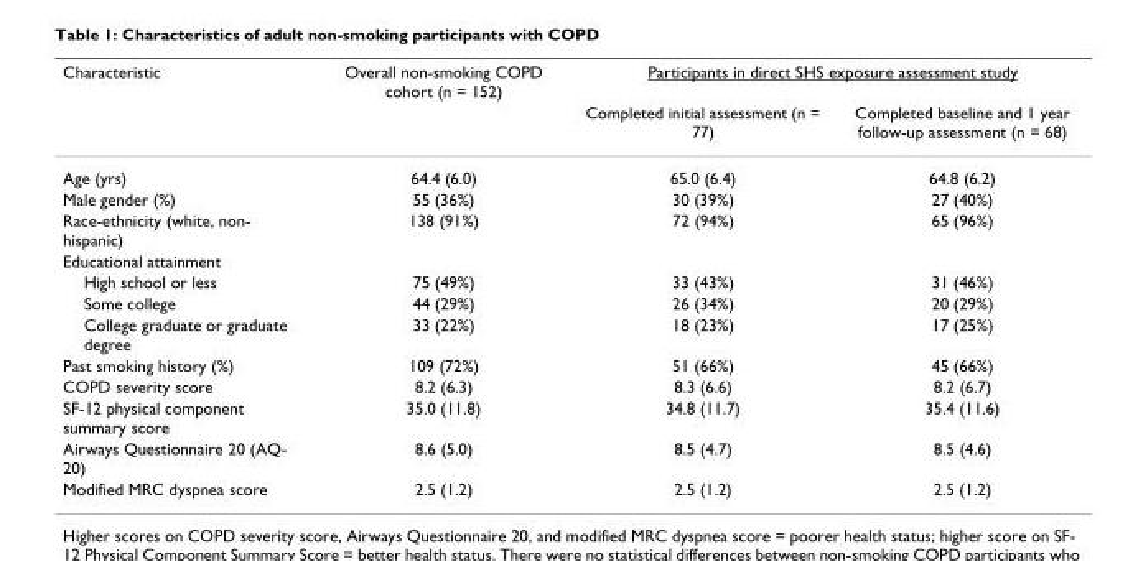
<table><thead><tr><td rowspan="2">Characteristic</td><td rowspan="2">Overall non-smoking COPD cohort (n = 152)</td><td colspan="2">Participants in direct SHS exposure assessment study</td></tr><tr><td>Completed initial assessment (n = 77)</td><td>Completed baseline and 1 year follow-up assessment (n = 68)</td></tr></thead><tbody><tr><td>Age (yrs)</td><td>64.4 (6.0)</td><td>65.0 (6.4)</td><td>64.8 (6.2)</td></tr><tr><td>Male gender (%)</td><td>55 (36%)</td><td>30 (39%)</td><td>27 (40%)</td></tr><tr><td>Race-ethnicity (white, non- hispanic)</td><td>138 (91%)</td><td>72 (94%)</td><td>65 (96%)</td></tr><tr><td colspan="4">Educational attainment</td></tr><tr><td>High school or less</td><td>75 (49%)</td><td>33 (43%)</td><td>31 (46%)</td></tr><tr><td>Some college</td><td>44 (29%)</td><td>26 (34%)</td><td>20 (29%)</td></tr><tr><td>College graduate or graduate degree</td><td>33 (22%)</td><td>18 (23%)</td><td>17 (25%)</td></tr><tr><td>Past smoking history (%)</td><td>109 (72%)</td><td>51 (66%)</td><td>45 (66%)</td></tr><tr><td>COPD severity score</td><td>8.2 (6.3)</td><td>8.3 (6.6)</td><td>8.2 (6.7)</td></tr><tr><td>SF-12 physical component summary score</td><td>35.0 (11.8)</td><td>34.8 (11.7)</td><td>35.4 (11.6)</td></tr><tr><td>Airways Questionnaire 20 (AQ- 20)</td><td>8.6 (5.0)</td><td>8.5 (4.7)</td><td>8.5 (4.6)</td></tr><tr><td>Modified MRC dyspnea score</td><td>2.5 (1.2)</td><td>2.5 (1.2)</td><td>2.5 (1.2)</td></tr></tbody></table>